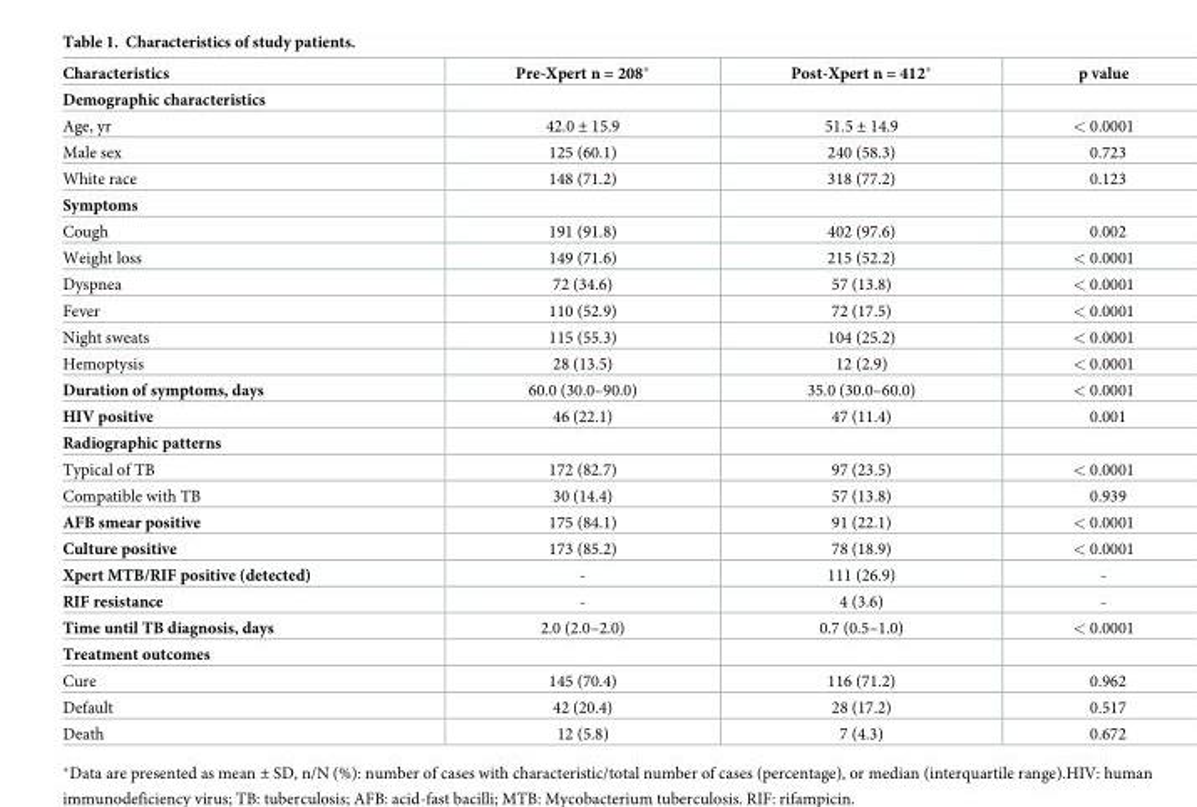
<table><thead><tr><td>Characteristics</td><td>Pre-Xpert n = 208*</td><td>Post-Xpert n = 412*</td><td>p value</td></tr></thead><tbody><tr><td colspan="4">Demographic characteristics</td></tr><tr><td>Age, yr</td><td>42.0 ± 15.9</td><td>51.5 ± 14.9</td><td>&lt; 0.0001</td></tr><tr><td>Male sex</td><td>125 (60.1)</td><td>240 (58.3)</td><td>0.723</td></tr><tr><td>White race</td><td>148 (71.2)</td><td>318 (77.2)</td><td>0.123</td></tr><tr><td colspan="4">Symptoms</td></tr><tr><td>Cough</td><td>191 (91.8)</td><td>402 (97.6)</td><td>0.002</td></tr><tr><td>Weight loss</td><td>149 (71.6)</td><td>215 (52.2)</td><td>&lt; 0.0001</td></tr><tr><td>Dyspnea</td><td>72 (34.6)</td><td>57 (13.8)</td><td>&lt; 0.0001</td></tr><tr><td>Fever</td><td>110 (52.9)</td><td>72 (17.5)</td><td>&lt; 0.0001</td></tr><tr><td>Night sweats</td><td>115 (55.3)</td><td>104 (25.2)</td><td>&lt; 0.0001</td></tr><tr><td>Hemoptysis</td><td>28 (13.5)</td><td>12 (2.9)</td><td>&lt; 0.0001</td></tr><tr><td>Duration of symptoms, days</td><td>60.0 (30.0–90.0)</td><td>35.0 (30.0–60.0)</td><td>&lt; 0.0001</td></tr><tr><td>HIV positive</td><td>46 (22.1)</td><td>47 (11.4)</td><td>0.001</td></tr><tr><td colspan="4">Radiographic patterns</td></tr><tr><td>Typical of TB</td><td>172 (82.7)</td><td>97 (23.5)</td><td>&lt; 0.0001</td></tr><tr><td>Compatible with TB</td><td>30 (14.4)</td><td>57 (13.8)</td><td>0.939</td></tr><tr><td>AFB smear positive</td><td>175 (84.1)</td><td>91 (22.1)</td><td>&lt; 0.0001</td></tr><tr><td>Culture positive</td><td>173 (85.2)</td><td>78 (18.9)</td><td>&lt; 0.0001</td></tr><tr><td>Xpert MTB/RIF positive (detected)</td><td>-</td><td>111 (26.9)</td><td>-</td></tr><tr><td>RIF resistance</td><td>-</td><td>4 (3.6)</td><td>-</td></tr><tr><td>Time until TB diagnosis, days</td><td>2.0 (2.0–2.0)</td><td>0.7 (0.5–1.0)</td><td>&lt; 0.0001</td></tr><tr><td colspan="4">Treatment outcomes</td></tr><tr><td>Cure</td><td>145 (70.4)</td><td>116 (71.2)</td><td>0.962</td></tr><tr><td>Default</td><td>42 (20.4)</td><td>28 (17.2)</td><td>0.517</td></tr><tr><td>Death</td><td>12 (5.8)</td><td>7 (4.3)</td><td>0.672</td></tr></tbody></table>